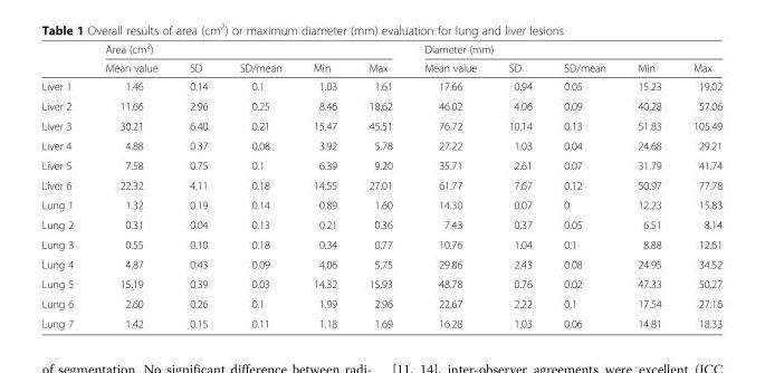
<table><thead><tr><td rowspan="2"></td><td colspan="5">Area (cm<sup>2</sup>)</td><td colspan="5">Diameter (mm)</td></tr><tr><td>Mean value</td><td>SD</td><td>SD/mean</td><td>Min</td><td>Max</td><td>Mean value</td><td>SD</td><td>SD/mean</td><td>Min</td><td>Max</td></tr></thead><tbody><tr><td>Liver 1</td><td>1.46</td><td>0.14</td><td>0.1</td><td>1.03</td><td>1.61</td><td>17.66</td><td>0.94</td><td>0.05</td><td>15.23</td><td>19.02</td></tr><tr><td>Liver 2</td><td>11.66</td><td>2.96</td><td>0.25</td><td>8.46</td><td>18.62</td><td>46.02</td><td>4.06</td><td>0.09</td><td>40.28</td><td>57.06</td></tr><tr><td>Liver 3</td><td>30.21</td><td>6.40</td><td>0.21</td><td>15.47</td><td>45.51</td><td>76.72</td><td>10.14</td><td>0.13</td><td>51.83</td><td>105.49</td></tr><tr><td>Liver 4</td><td>4.88</td><td>0.37</td><td>0.08</td><td>3.92</td><td>5.78</td><td>27.22</td><td>1.03</td><td>0.04</td><td>24.68</td><td>29.21</td></tr><tr><td>Liver 5</td><td>7.58</td><td>0.75</td><td>0.1</td><td>6.39</td><td>9.20</td><td>35.71</td><td>2.61</td><td>0.07</td><td>31.79</td><td>41.74</td></tr><tr><td>Liver 6</td><td>22.32</td><td>4.11</td><td>0.18</td><td>14.55</td><td>27.01</td><td>61.77</td><td>7.67</td><td>0.12</td><td>50.97</td><td>77.78</td></tr><tr><td>Lung 1</td><td>1.32</td><td>0.19</td><td>0.14</td><td>0.89</td><td>1.60</td><td>14.30</td><td>0.07</td><td>0</td><td>12.23</td><td>15.83</td></tr><tr><td>Lung 2</td><td>0.31</td><td>0.04</td><td>0.13</td><td>0.21</td><td>0.36</td><td>7.43</td><td>0.37</td><td>0.05</td><td>6.51</td><td>8.14</td></tr><tr><td>Lung 3</td><td>0.55</td><td>0.10</td><td>0.18</td><td>0.34</td><td>0.77</td><td>10.76</td><td>1.04</td><td>0.1</td><td>8.88</td><td>12.61</td></tr><tr><td>Lung 4</td><td>4.87</td><td>0.43</td><td>0.09</td><td>4.06</td><td>5.75</td><td>29.86</td><td>2.43</td><td>0.08</td><td>24.95</td><td>34.52</td></tr><tr><td>Lung 5</td><td>15.19</td><td>0.39</td><td>0.03</td><td>14.32</td><td>15.93</td><td>48.78</td><td>0.76</td><td>0.02</td><td>47.33</td><td>50.27</td></tr><tr><td>Lung 6</td><td>2.60</td><td>0.26</td><td>0.1</td><td>1.99</td><td>2.96</td><td>22.67</td><td>2.22</td><td>0.1</td><td>17.54</td><td>27.16</td></tr><tr><td>Lung 7</td><td>1.42</td><td>0.15</td><td>0.11</td><td>1.18</td><td>1.69</td><td>16.28</td><td>1.03</td><td>0.06</td><td>14.81</td><td>18.33</td></tr></tbody></table>